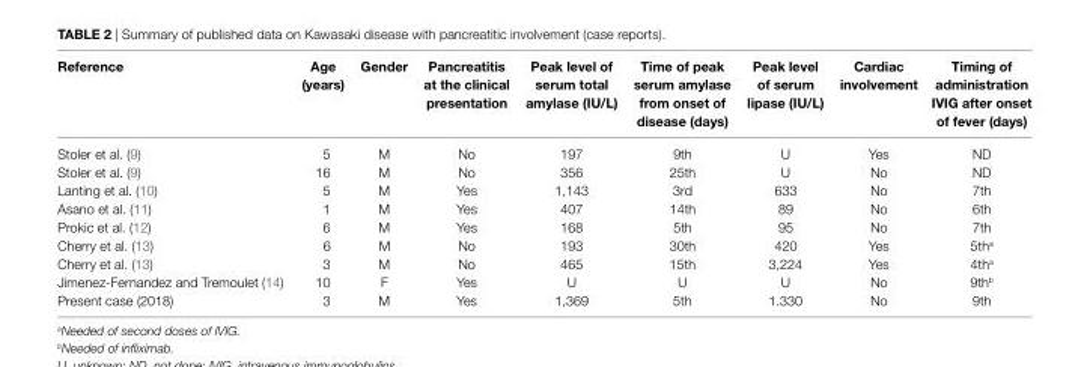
<table><thead><tr><td>Reference</td><td>age (years)</td><td>Gender</td><td>pancreatitis at the clinical presentation</td><td>peak level of serum total amylase (IU/L)</td><td>time of peak serum amylase from onset of disease (days)</td><td>peak level of serum lipase (IU/L)</td><td>Cardiac involvement</td><td>timing of administration IVIG after onset of fever (days)</td></tr></thead><tbody><tr><td>Stoler et al. (9)</td><td>5</td><td>M</td><td>No</td><td>197</td><td>9th</td><td>U</td><td>Yes</td><td>ND</td></tr><tr><td>Stoler et al. (9)</td><td>16</td><td>M</td><td>No</td><td>356</td><td>25th</td><td>U</td><td>No</td><td>ND</td></tr><tr><td>Lanting et al. (10)</td><td>5</td><td>M</td><td>Yes</td><td>1,143</td><td>3rd</td><td>633</td><td>No</td><td>7th</td></tr><tr><td>Asano et al. (11)</td><td>1</td><td>M</td><td>Yes</td><td>407</td><td>14th</td><td>89</td><td>No</td><td>6th</td></tr><tr><td>Prokic et al. (12)</td><td>6</td><td>M</td><td>Yes</td><td>168</td><td>5th</td><td>95</td><td>No</td><td>7th</td></tr><tr><td>Cherry et al. (13)</td><td>6</td><td>M</td><td>No</td><td>193</td><td>30th</td><td>420</td><td>Yes</td><td>5th<sup>a</sup></td></tr><tr><td>Cherry et al. (13)</td><td>3</td><td>M</td><td>No</td><td>465</td><td>15th</td><td>3,224</td><td>Yes</td><td>4th<sup>a</sup></td></tr><tr><td>Jimenez-Fernandez and Tremoulet (14)</td><td>10</td><td>F</td><td>Yes</td><td>U</td><td>U</td><td>U</td><td>No</td><td>9th<sup>b</sup></td></tr><tr><td>Present case (2018)</td><td>3</td><td>M</td><td>Yes</td><td>1,369</td><td>5th</td><td>1.330</td><td>No</td><td>9th</td></tr></tbody></table>